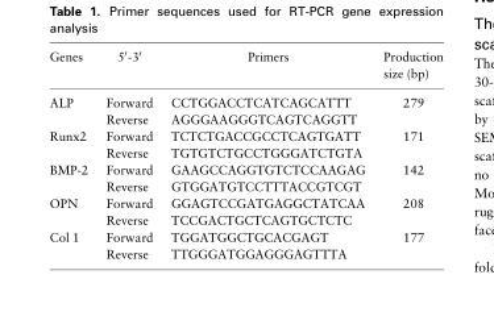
<table><thead><tr><td>Genes</td><td>5′-3′</td><td>Primers</td><td>Production size (bp)</td></tr></thead><tbody><tr><td rowspan="2">ALP</td><td>Forward</td><td>CCTGGACCTCATCAGCATTT</td><td rowspan="2">279</td></tr><tr><td>Reverse</td><td>AGGGAAGGGTCAGTCAGGTT</td></tr><tr><td rowspan="2">Runx2</td><td>Forward</td><td>TCTCTGACCGCCTCAGTGATT</td><td rowspan="2">171</td></tr><tr><td>Reverse</td><td>TGTGTCTGCCTGGGATCTGTA</td></tr><tr><td rowspan="2">BMP-2</td><td>Forward</td><td>GAAGCCAGGTGTCTCCAAGAG</td><td rowspan="2">142</td></tr><tr><td>Reverse</td><td>GTGGATGTCCTTTACCGTCGT</td></tr><tr><td rowspan="2">OPN</td><td>Forward</td><td>GGAGTCCGATGAGGCTATCAA</td><td rowspan="2">208</td></tr><tr><td>Reverse</td><td>TCCGACTGCTCAGTGCTCTC</td></tr><tr><td rowspan="2">Col 1</td><td>Forward</td><td>TGGATGGCTGCACGAGT</td><td rowspan="2">177</td></tr><tr><td>Reverse</td><td>TTGGGATGGAGGGAGTTTA</td></tr></tbody></table>